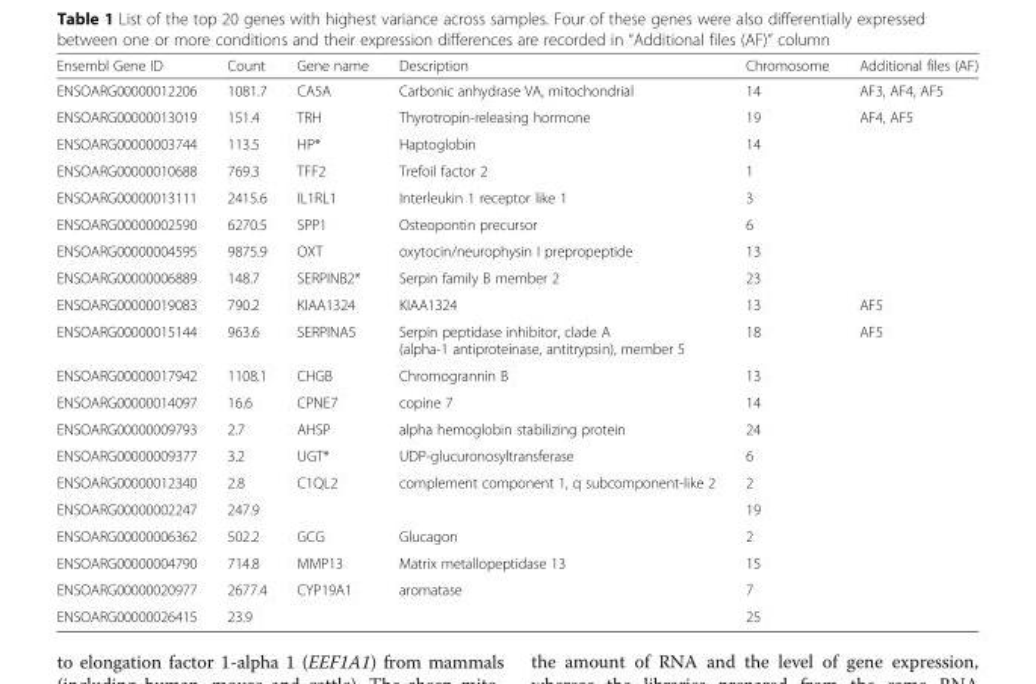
<table><thead><tr><td>Ensembl Gene ID</td><td>Count</td><td>Gene name</td><td>Description</td><td>Chromosome</td><td>Additional files (AF)</td></tr></thead><tbody><tr><td>ENSOARG00000012206</td><td>1081.7</td><td>CA5A</td><td>Carbonic anhydrase VA, mitochondrial</td><td>14</td><td>AF3, AF4, AF5</td></tr><tr><td>ENSOARG00000013019</td><td>151.4</td><td>TRH</td><td>Thyrotropin-releasing hormone</td><td>19</td><td>AF4, AF5</td></tr><tr><td>ENSOARG00000003744</td><td>113.5</td><td>HP*</td><td>Haptoglobin</td><td>14</td><td></td></tr><tr><td>ENSOARG00000010688</td><td>769.3</td><td>TFF2</td><td>Trefoil factor 2</td><td>1</td><td></td></tr><tr><td>ENSOARG00000013111</td><td>2415.6</td><td>IL1RL1</td><td>Interleukin 1 receptor like 1</td><td>3</td><td></td></tr><tr><td>ENSOARG00000002590</td><td>6270.5</td><td>SPP1</td><td>Osteopontin precursor</td><td>6</td><td></td></tr><tr><td>ENSOARG00000004595</td><td>9875.9</td><td>OXT</td><td>oxytocin/neurophysin I prepropeptide</td><td>13</td><td></td></tr><tr><td>ENSOARG00000006889</td><td>148.7</td><td>SERPINB2*</td><td>Serpin family B member 2</td><td>23</td><td></td></tr><tr><td>ENSOARG00000019083</td><td>790.2</td><td>KIAA1324</td><td>KIAA1324</td><td>13</td><td>AF5</td></tr><tr><td>ENSOARG00000015144</td><td>963.6</td><td>SERPINA5</td><td>Serpin peptidase inhibitor, clade A (alpha-1 antiproteinase, antitrypsin), member 5</td><td>18</td><td>AF5</td></tr><tr><td>ENSOARG00000017942</td><td>1108.1</td><td>CHGB</td><td>Chromogrannin B</td><td>13</td><td></td></tr><tr><td>ENSOARG00000014097</td><td>16.6</td><td>CPNE7</td><td>copine 7</td><td>14</td><td></td></tr><tr><td>ENSOARG00000009793</td><td>2.7</td><td>AHSP</td><td>alpha hemoglobin stabilizing protein</td><td>24</td><td></td></tr><tr><td>ENSOARG00000009377</td><td>3.2</td><td>UGT*</td><td>UDP-glucuronosyltransferase</td><td>6</td><td></td></tr><tr><td>ENSOARG00000012340</td><td>2.8</td><td>C1QL2</td><td>complement component 1, q subcomponent-like 2</td><td>2</td><td></td></tr><tr><td>ENSOARG00000002247</td><td>247.9</td><td></td><td></td><td>19</td><td></td></tr><tr><td>ENSOARG00000006362</td><td>502.2</td><td>GCG</td><td>Glucagon</td><td>2</td><td></td></tr><tr><td>ENSOARG00000004790</td><td>714.8</td><td>MMP13</td><td>Matrix metallopeptidase 13</td><td>15</td><td></td></tr><tr><td>ENSOARG00000020977</td><td>2677.4</td><td>CYP19A1</td><td>aromatase</td><td>7</td><td></td></tr><tr><td>ENSOARG00000026415</td><td>23.9</td><td></td><td></td><td>25</td><td></td></tr></tbody></table>